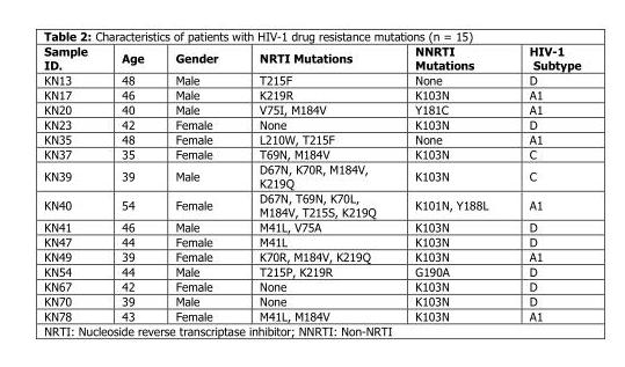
<table><thead><tr><td>Sample ID.</td><td>Age</td><td>Gender</td><td>NRTI Mutations</td><td>NNRTI Mutations</td><td>HIV-1 Subtype</td></tr></thead><tbody><tr><td>KN13</td><td>48</td><td>Male</td><td>T215F</td><td>None</td><td>D</td></tr><tr><td>KN17</td><td>46</td><td>Male</td><td>K219R</td><td>K103N</td><td>A1</td></tr><tr><td>KN20</td><td>40</td><td>Male</td><td>V75I, M184V</td><td>Y181C</td><td>A1</td></tr><tr><td>KN23</td><td>42</td><td>Female</td><td>None</td><td>K103N</td><td>D</td></tr><tr><td>KN35</td><td>48</td><td>Female</td><td>L210W, T215F</td><td>None</td><td>A1</td></tr><tr><td>KN37</td><td>35</td><td>Female</td><td>T69N, M184V</td><td>K103N</td><td>C</td></tr><tr><td>KN39</td><td>39</td><td>Male</td><td>D67N, K70R, M184V, K219Q</td><td>K103N</td><td>C</td></tr><tr><td>KN40</td><td>54</td><td>Female</td><td>D67N, T69N, K70L, M184V, T215S, K219Q</td><td>K101N, Y188L</td><td>A1</td></tr><tr><td>KN41</td><td>46</td><td>Male</td><td>M41L, V75A</td><td>K103N</td><td>D</td></tr><tr><td>KN47</td><td>44</td><td>Female</td><td>M41L</td><td>K103N</td><td>D</td></tr><tr><td>KN49</td><td>39</td><td>Female</td><td>K70R, M184V, K219Q</td><td>K103N</td><td>A1</td></tr><tr><td>KN54</td><td>44</td><td>Male</td><td>T215P, K219R</td><td>G190A</td><td>D</td></tr><tr><td>KN67</td><td>42</td><td>Female</td><td>None</td><td>K103N</td><td>D</td></tr><tr><td>KN70</td><td>39</td><td>Male</td><td>None</td><td>K103N</td><td>D</td></tr><tr><td>KN78</td><td>43</td><td>Female</td><td>M41L, M184V</td><td>K103N</td><td>A1</td></tr></tbody></table>